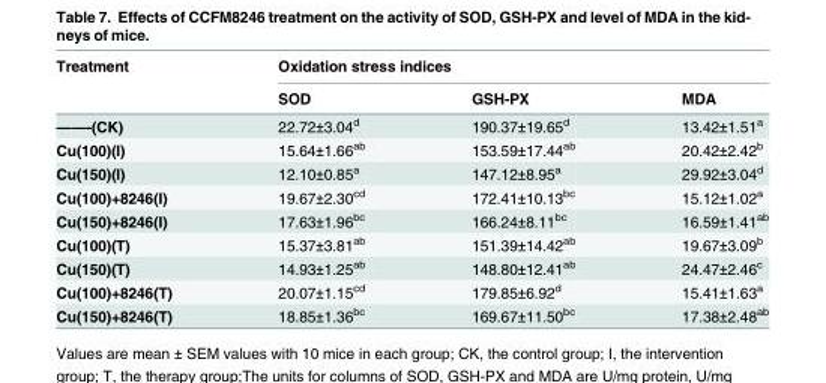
<table><thead><tr><td rowspan="2">Treatment</td><td colspan="3">Oxidation stress indices</td></tr><tr><td>SOD</td><td>GSH-PX</td><td>MDA</td></tr></thead><tbody><tr><td>——-(CK)</td><td>22.72±3.04<sup>d</sup></td><td>190.37±19.65<sup>d</sup></td><td>13.42±1.51<sup>a</sup></td></tr><tr><td>Cu(100)(I)</td><td>15.64±1.66<sup>ab</sup></td><td>153.59±17.44<sup>ab</sup></td><td>20.42±2.42<sup>b</sup></td></tr><tr><td>Cu(150)(I)</td><td>12.10±0.85<sup>a</sup></td><td>147.12±8.95<sup>a</sup></td><td>29.92±3.04<sup>d</sup></td></tr><tr><td>Cu(100)+8246(I)</td><td>19.67±2.30<sup>cd</sup></td><td>172.41±10.13<sup>bc</sup></td><td>15.12±1.02<sup>a</sup></td></tr><tr><td>Cu(150)+8246(I)</td><td>17.63±1.96<sup>bc</sup></td><td>166.24±8.11<sup>bc</sup></td><td>16.59±1.41<sup>ab</sup></td></tr><tr><td>Cu(100)(T)</td><td>15.37±3.81<sup>ab</sup></td><td>151.39±14.42<sup>ab</sup></td><td>19.67±3.09<sup>b</sup></td></tr><tr><td>Cu(150)(T)</td><td>14.93±1.25<sup>ab</sup></td><td>148.80±12.41<sup>ab</sup></td><td>24.47±2.46<sup>c</sup></td></tr><tr><td>Cu(100)+8246(T)</td><td>20.07±1.15<sup>cd</sup></td><td>179.85±6.92<sup>d</sup></td><td>15.41±1.63<sup>a</sup></td></tr><tr><td>Cu(150)+8246(T)</td><td>18.85±1.36<sup>bc</sup></td><td>169.67±11.50<sup>bc</sup></td><td>17.38±2.48<sup>ab</sup></td></tr></tbody></table>